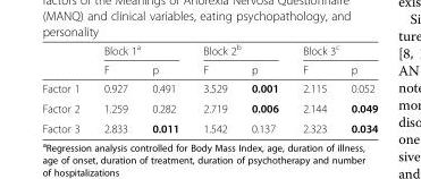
<table><thead><tr><td rowspan="2"></td><td colspan="2">Block 1<sup>a</sup></td><td colspan="2">Block 2<sup>b</sup></td><td colspan="2">Block 3<sup>c</sup></td></tr><tr><td>F</td><td>p</td><td>F</td><td>p</td><td>F</td><td>p</td></tr></thead><tbody><tr><td>Factor 1</td><td>0.927</td><td>0.491</td><td>3.529</td><td>0.001</td><td>2.115</td><td>0.052</td></tr><tr><td>Factor 2</td><td>1.259</td><td>0.282</td><td>2.719</td><td>0.006</td><td>2.144</td><td>0.049</td></tr><tr><td>Factor 3</td><td>2.833</td><td>0.011</td><td>1.542</td><td>0.137</td><td>2.323</td><td>0.034</td></tr></tbody></table>